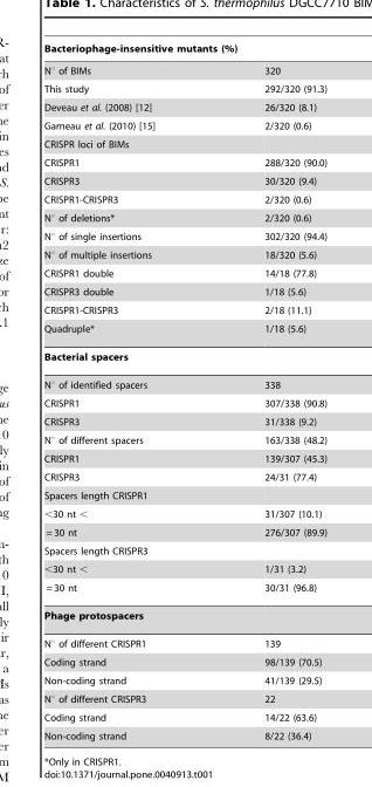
<table><thead><tr><td colspan="2">Bacteriophage-insensitive mutants (%)</td></tr><tr><td>N° of BIMs</td><td>320</td></tr></thead><tbody><tr><td>This study</td><td>292/320 (91.3)</td></tr><tr><td>Deveau et al. (2008) [12]</td><td>26/320 (8.1)</td></tr><tr><td>Garneau et al. (2010) [15]</td><td>2/320 (0.6)</td></tr><tr><td colspan="2">CRISPR loci of BIMs</td></tr><tr><td>CRISPR1</td><td>288/320 (90.0)</td></tr><tr><td>CRISPR3</td><td>30/320 (9.4)</td></tr><tr><td>CRISPR1-CRISPR3</td><td>2/320 (0.6)</td></tr><tr><td>N° of deletions*</td><td>2/320 (0.6)</td></tr><tr><td>N° of single insertions</td><td>302/320 (94.4)</td></tr><tr><td>N° of multiple insertions</td><td>18/320 (5.6)</td></tr><tr><td>CRISPR1 double</td><td>14/18 (77.8)</td></tr><tr><td>CRISPR3 double</td><td>1/18 (5.6)</td></tr><tr><td>CRISPR1-CRISPR3</td><td>2/18 (11.1)</td></tr><tr><td>Quadruple*</td><td>1/18 (5.6)</td></tr><tr><td colspan="2">Bacterial spacers</td></tr><tr><td>N° of identified spacers</td><td>338</td></tr><tr><td>CRISPR1</td><td>307/338 (90.8)</td></tr><tr><td>CRISPR3</td><td>31/338 (9.2)</td></tr><tr><td>N° of different spacers</td><td>163/338 (48.2)</td></tr><tr><td>CRISPR1</td><td>139/307 (45.3)</td></tr><tr><td>CRISPR3</td><td>24/31 (77.4)</td></tr><tr><td colspan="2">Spacers length CRISPR1</td></tr><tr><td>&lt;30 nt &lt;</td><td>31/307 (10.1)</td></tr><tr><td>= 30 nt</td><td>276/307 (89.9)</td></tr><tr><td colspan="2">Spacers length CRISPR3</td></tr><tr><td>&lt;30 nt &lt;</td><td>1/31 (3.2)</td></tr><tr><td>= 30 nt</td><td>30/31 (96.8)</td></tr><tr><td colspan="2">Phage protospacers</td></tr><tr><td>N° of different CRISPR1</td><td>139</td></tr><tr><td>Coding strand</td><td>98/139 (70.5)</td></tr><tr><td>Non-coding strand</td><td>41/139 (29.5)</td></tr><tr><td>N° of different CRISPR3</td><td>22</td></tr><tr><td>Coding strand</td><td>14/22 (63.6)</td></tr><tr><td>Non-coding strand</td><td>8/22 (36.4)</td></tr></tbody></table>